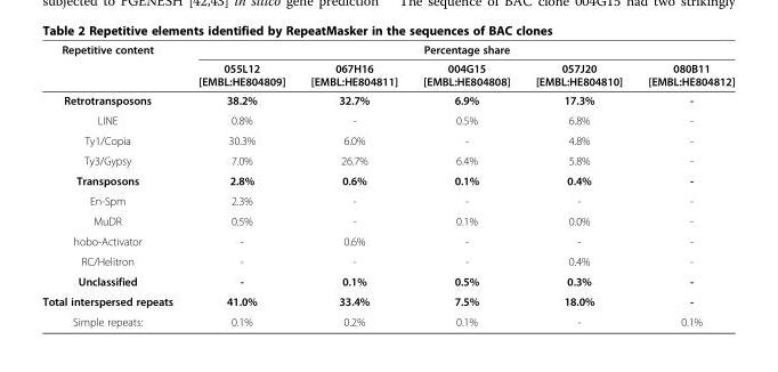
<table><thead><tr><td rowspan="2">Repetitive content</td><td colspan="5">Percentage share</td></tr><tr><td>055L12 [EMBL:HE804809]</td><td>067H16 [EMBL:HE804811]</td><td>004G15 [EMBL:HE804808]</td><td>057J20 [EMBL:HE804810]</td><td>080B11 [EMBL:HE804812]</td></tr></thead><tbody><tr><td>Retrotransposons</td><td>38.2%</td><td>32.7%</td><td>6.9%</td><td>17.3%</td><td>-</td></tr><tr><td>LINE</td><td>0.8%</td><td>-</td><td>0.5%</td><td>6.8%</td><td>-</td></tr><tr><td>Ty1/Copia</td><td>30.3%</td><td>6.0%</td><td>-</td><td>4.8%</td><td>-</td></tr><tr><td>Ty3/Gypsy</td><td>7.0%</td><td>26.7%</td><td>6.4%</td><td>5.8%</td><td>-</td></tr><tr><td>Transposons</td><td>2.8%</td><td>0.6%</td><td>0.1%</td><td>0.4%</td><td>-</td></tr><tr><td>En-Spm</td><td>2.3%</td><td>-</td><td>-</td><td>-</td><td>-</td></tr><tr><td>MuDR</td><td>0.5%</td><td>-</td><td>0.1%</td><td>0.0%</td><td>-</td></tr><tr><td>hobo-Activator</td><td>-</td><td>0.6%</td><td>-</td><td>-</td><td>-</td></tr><tr><td>RC/Helitron</td><td>-</td><td>-</td><td>-</td><td>0.4%</td><td>-</td></tr><tr><td>Unclassified</td><td>-</td><td>0.1%</td><td>0.5%</td><td>0.3%</td><td>-</td></tr><tr><td>Total interspersed repeats</td><td>41.0%</td><td>33.4%</td><td>7.5%</td><td>18.0%</td><td>-</td></tr><tr><td>Simple repeats:</td><td>0.1%</td><td>0.2%</td><td>0.1%</td><td>-</td><td>0.1%</td></tr></tbody></table>